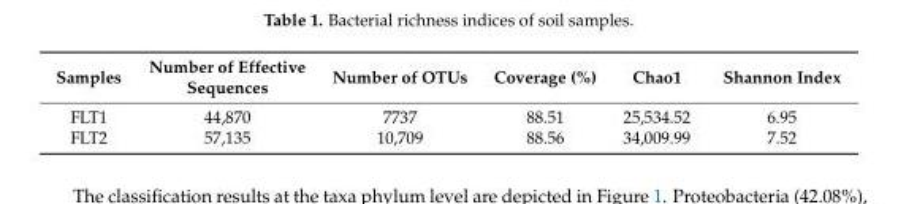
<table><thead><tr><td>Samples</td><td>Number of Effective Sequences</td><td>Number of OTUs</td><td>Coverage (%)</td><td>Chao1</td><td>Shannon Index</td></tr></thead><tbody><tr><td>FLT1</td><td>44,870</td><td>7737</td><td>88.51</td><td>25,534.52</td><td>6.95</td></tr><tr><td>FLT2</td><td>57,135</td><td>10,709</td><td>88.56</td><td>34,009.99</td><td>7.52</td></tr></tbody></table>